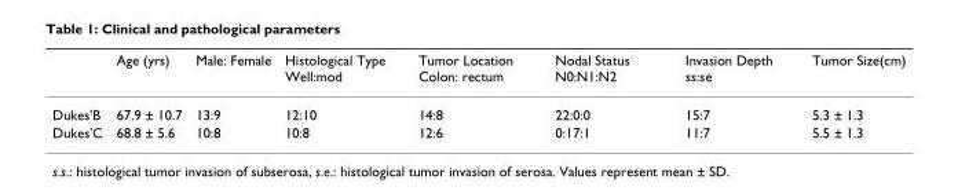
<table><thead><tr><td></td><td>Age (yrs)</td><td>Male: Female</td><td>Histological Type Well:mod</td><td>Tumor Location Colon: rectum</td><td>Nodal Status N0:N1:N2</td><td>Invasion Depth ss:se</td><td>Tumor Size(cm)</td></tr></thead><tbody><tr><td>Dukes&#x27;B</td><td>67.9 ± 10.7</td><td>13:9</td><td>12:10</td><td>14:8</td><td>22:0:0</td><td>15:7</td><td>5.3 ± 1.3</td></tr><tr><td>Dukes&#x27;C</td><td>68.8 ± 5.6</td><td>10:8</td><td>10:8</td><td>12:6</td><td>0:17:1</td><td>11:7</td><td>5.5 ± 1.3</td></tr></tbody></table>